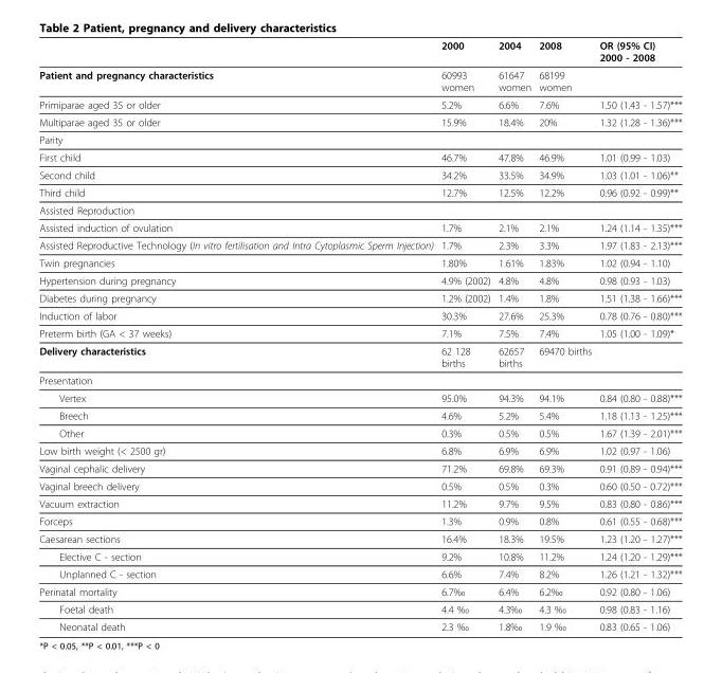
<table><thead><tr><td></td><td>2000</td><td>2004</td><td>2008</td><td>OR (95% CI) 2000 - 2008</td></tr></thead><tbody><tr><td>Patient and pregnancy characteristics</td><td>60993 women</td><td>61647 women</td><td>68199 women</td><td></td></tr><tr><td>Primiparae aged 35 or older</td><td>5.2%</td><td>6.6%</td><td>7.6%</td><td>1.50 (1.43 - 1.57)***</td></tr><tr><td>Multiparae aged 35 or older</td><td>15.9%</td><td>18.4%</td><td>20%</td><td>1.32 (1.28 - 1.36)***</td></tr><tr><td colspan="5">Parity</td></tr><tr><td>First child</td><td>46.7%</td><td>47.8%</td><td>46.9%</td><td>1.01 (0.99 - 1.03)</td></tr><tr><td>Second child</td><td>34.2%</td><td>33.5%</td><td>34.9%</td><td>1.03 (1.01 - 1.06)**</td></tr><tr><td>Third child</td><td>12.7%</td><td>12.5%</td><td>12.2%</td><td>0.96 (0.92 - 0.99)**</td></tr><tr><td colspan="5">Assisted Reproduction</td></tr><tr><td>Assisted induction of ovulation</td><td>1.7%</td><td>2.1%</td><td>2.1%</td><td>1.24 (1.14 - 1.35)***</td></tr><tr><td>Assisted Reproductive Technology (In vitro fertilisation and Intra Cytoplasmic Sperm Injection)</td><td>1.7%</td><td>2.3%</td><td>3.3%</td><td>1.97 (1.83 - 2.13)***</td></tr><tr><td>Twin pregnancies</td><td>1.80%</td><td>1.61%</td><td>1.83%</td><td>1.02 (0.94 - 1.10)</td></tr><tr><td>Hypertension during pregnancy</td><td>4.9% (2002)</td><td>4.8%</td><td>4.8%</td><td>0.98 (0.93 - 1.03)</td></tr><tr><td>Diabetes during pregnancy</td><td>1.2% (2002)</td><td>1.4%</td><td>1.8%</td><td>1.51 (1.38 - 1.66)***</td></tr><tr><td>Induction of labor</td><td>30.3%</td><td>27.6%</td><td>25.3%</td><td>0.78 (0.76 - 0.80)***</td></tr><tr><td>Preterm birth (GA &lt; 37 weeks)</td><td>7.1%</td><td>7.5%</td><td>7.4%</td><td>1.05 (1.00 - 1.09)*</td></tr><tr><td>Delivery characteristics</td><td>62 128 births</td><td>62657 births</td><td>69470 births</td><td></td></tr><tr><td colspan="5">Presentation</td></tr><tr><td>Vertex</td><td>95.0%</td><td>94.3%</td><td>94.1%</td><td>0.84 (0.80 - 0.88)***</td></tr><tr><td>Breech</td><td>4.6%</td><td>5.2%</td><td>5.4%</td><td>1.18 (1.13 - 1.25)***</td></tr><tr><td>Other</td><td>0.3%</td><td>0.5%</td><td>0.5%</td><td>1.67 (1.39 - 2.01)***</td></tr><tr><td>Low birth weight (&lt; 2500 gr)</td><td>6.8%</td><td>6.9%</td><td>6.9%</td><td>1.02 (0.97 - 1.06)</td></tr><tr><td>Vaginal cephalic delivery</td><td>71.2%</td><td>69.8%</td><td>69.3%</td><td>0.91 (0.89 - 0.94)***</td></tr><tr><td>Vaginal breech delivery</td><td>0.5%</td><td>0.5%</td><td>0.3%</td><td>0.60 (0.50 - 0.72)***</td></tr><tr><td>Vacuum extraction</td><td>11.2%</td><td>9.7%</td><td>9.5%</td><td>0.83 (0.80 - 0.86)***</td></tr><tr><td>Forceps</td><td>1.3%</td><td>0.9%</td><td>0.8%</td><td>0.61 (0.55 - 0.68)***</td></tr><tr><td>Caesarean sections</td><td>16.4%</td><td>18.3%</td><td>19.5%</td><td>1.23 (1.20 - 1.27)***</td></tr><tr><td>Elective C - section</td><td>9.2%</td><td>10.8%</td><td>11.2%</td><td>1.24 (1.20 - 1.29)***</td></tr><tr><td>Unplanned C - section</td><td>6.6%</td><td>7.4%</td><td>8.2%</td><td>1.26 (1.21 - 1.32)***</td></tr><tr><td>Perinatal mortality</td><td>6.7‰</td><td>6.4%</td><td>6.2‰</td><td>0.92 (0.80 - 1.06)</td></tr><tr><td>Foetal death</td><td>4.4 ‰</td><td>4.3‰</td><td>4.3 ‰</td><td>0.98 (0.83 - 1.16)</td></tr><tr><td>Neonatal death</td><td>2.3 ‰</td><td>1.8‰</td><td>1.9 ‰</td><td>0.83 (0.65 - 1.06)</td></tr></tbody></table>